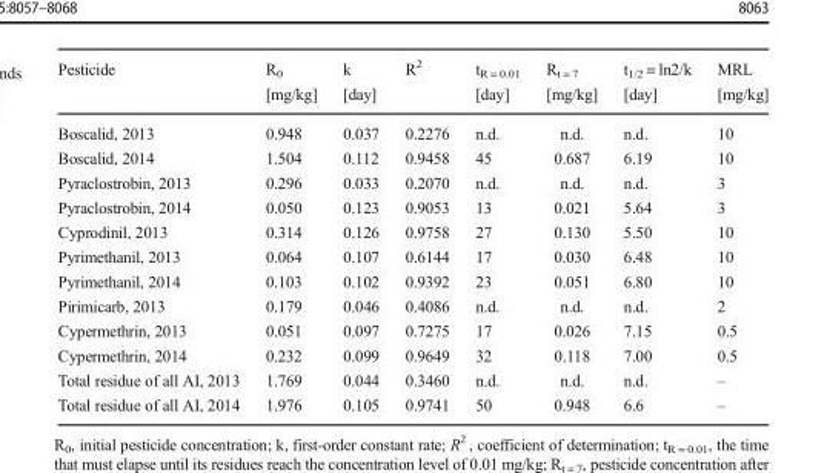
<table><thead><tr><td>Pesticide</td><td>R<sub>0</sub> [mg/kg]</td><td>k [day]</td><td>R<sup>2</sup></td><td>t<sub>R = 0.01</sub> [day]</td><td>R<sub>t = 7</sub> [mg/kg]</td><td>t<sub>1/2</sub> = ln2/k [day]</td><td>MRL [mg/kg]</td></tr></thead><tbody><tr><td>Boscalid, 2013</td><td>0.948</td><td>0.037</td><td>0.2276</td><td>n.d.</td><td>n.d.</td><td>n.d.</td><td>10</td></tr><tr><td>Boscalid, 2014</td><td>1.504</td><td>0.112</td><td>0.9458</td><td>45</td><td>0.687</td><td>6.19</td><td>10</td></tr><tr><td>Pyraclostrobin, 2013</td><td>0.296</td><td>0.033</td><td>0.2070</td><td>n.d.</td><td>n.d.</td><td>n.d.</td><td>3</td></tr><tr><td>Pyraclostrobin, 2014</td><td>0.050</td><td>0.123</td><td>0.9053</td><td>13</td><td>0.021</td><td>5.64</td><td>3</td></tr><tr><td>Cyprodinil, 2013</td><td>0.314</td><td>0.126</td><td>0.9758</td><td>27</td><td>0.130</td><td>5.50</td><td>10</td></tr><tr><td>Pyrimethanil, 2013</td><td>0.064</td><td>0.107</td><td>0.6144</td><td>17</td><td>0.030</td><td>6.48</td><td>10</td></tr><tr><td>Pyrimethanil, 2014</td><td>0.103</td><td>0.102</td><td>0.9392</td><td>23</td><td>0.051</td><td>6.80</td><td>10</td></tr><tr><td>Pirimicarb, 2013</td><td>0.179</td><td>0.046</td><td>0.4086</td><td>n.d.</td><td>n.d.</td><td>n.d.</td><td>2</td></tr><tr><td>Cypermethrin, 2013</td><td>0.051</td><td>0.097</td><td>0.7275</td><td>17</td><td>0.026</td><td>7.15</td><td>0.5</td></tr><tr><td>Cypermethrin, 2014</td><td>0.232</td><td>0.099</td><td>0.9649</td><td>32</td><td>0.118</td><td>7.00</td><td>0.5</td></tr><tr><td>Total residue of all AI, 2013</td><td>1.769</td><td>0.044</td><td>0.3460</td><td>n.d.</td><td>n.d.</td><td>n.d.</td><td>–</td></tr><tr><td>Total residue of all AI, 2014</td><td>1.976</td><td>0.105</td><td>0.9741</td><td>50</td><td>0.948</td><td>6.6</td><td>–</td></tr></tbody></table>